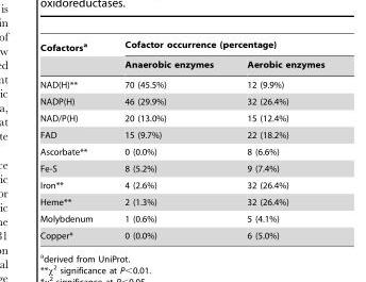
<table><thead><tr><td rowspan="2">Cofactors<sup>a</sup></td><td colspan="2">Cofactor occurrence (percentage)</td></tr><tr><td>Anaerobic enzymes</td><td>Aerobic enzymes</td></tr></thead><tbody><tr><td>NAD(H)**</td><td>70 (45.5%)</td><td>12 (9.9%)</td></tr><tr><td>NADP(H)</td><td>46 (29.9%)</td><td>32 (26.4%)</td></tr><tr><td>NAD/P(H)</td><td>20 (13.0%)</td><td>15 (12.4%)</td></tr><tr><td>FAD</td><td>15 (9.7%)</td><td>22 (18.2%)</td></tr><tr><td>Ascorbate**</td><td>0 (0.0%)</td><td>8 (6.6%)</td></tr><tr><td>Fe-S</td><td>8 (5.2%)</td><td>9 (7.4%)</td></tr><tr><td>Iron**</td><td>4 (2.6%)</td><td>32 (26.4%)</td></tr><tr><td>Heme**</td><td>2 (1.3%)</td><td>32 (26.4%)</td></tr><tr><td>Molybdenum</td><td>1 (0.6%)</td><td>5 (4.1%)</td></tr><tr><td>Copper*</td><td>0 (0.0%)</td><td>6 (5.0%)</td></tr></tbody></table>